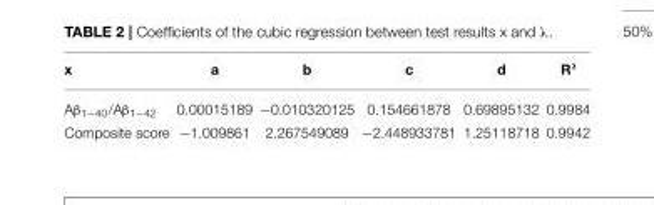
<table><thead><tr><td>x</td><td>a</td><td>b</td><td>c</td><td>d</td><td>R²</td></tr></thead><tbody><tr><td>Aβ<sub>1−40</sub>/Aβ<sub>1−42</sub></td><td>0.00015189</td><td>−0.010320125</td><td>0.154661878</td><td>0.69895132</td><td>0.9984</td></tr><tr><td>Composite score</td><td>−1.009861</td><td>2.267549089</td><td>−2.448933781</td><td>1.25118718</td><td>0.9942</td></tr></tbody></table>